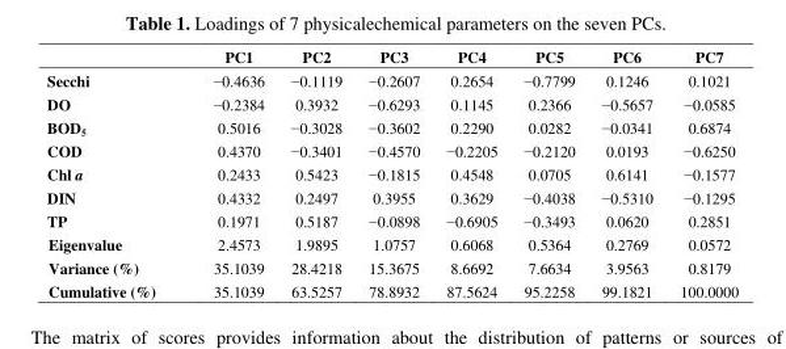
<table><thead><tr><td></td><td>PC1</td><td>PC2</td><td>PC3</td><td>PC4</td><td>PC5</td><td>PC6</td><td>PC7</td></tr></thead><tbody><tr><td>Secchi</td><td>−0.4636</td><td>−0.1119</td><td>−0.2607</td><td>0.2654</td><td>−0.7799</td><td>0.1246</td><td>0.1021</td></tr><tr><td>DO</td><td>−0.2384</td><td>0.3932</td><td>−0.6293</td><td>0.1145</td><td>0.2366</td><td>−0.5657</td><td>−0.0585</td></tr><tr><td>BOD<sub>5</sub></td><td>0.5016</td><td>−0.3028</td><td>−0.3602</td><td>0.2290</td><td>0.0282</td><td>−0.0341</td><td>0.6874</td></tr><tr><td>COD</td><td>0.4370</td><td>−0.3401</td><td>−0.4570</td><td>−0.2205</td><td>−0.2120</td><td>0.0193</td><td>−0.6250</td></tr><tr><td>Chl a</td><td>0.2433</td><td>0.5423</td><td>−0.1815</td><td>0.4548</td><td>0.0705</td><td>0.6141</td><td>−0.1577</td></tr><tr><td>DIN</td><td>0.4332</td><td>0.2497</td><td>0.3955</td><td>0.3629</td><td>−0.4038</td><td>−0.5310</td><td>−0.1295</td></tr><tr><td>TP</td><td>0.1971</td><td>0.5187</td><td>−0.0898</td><td>−0.6905</td><td>−0.3493</td><td>0.0620</td><td>0.2851</td></tr><tr><td>Eigenvalue</td><td>2.4573</td><td>1.9895</td><td>1.0757</td><td>0.6068</td><td>0.5364</td><td>0.2769</td><td>0.0572</td></tr><tr><td>Variance (%)</td><td>35.1039</td><td>28.4218</td><td>15.3675</td><td>8.6692</td><td>7.6634</td><td>3.9563</td><td>0.8179</td></tr><tr><td>Cumulative (%)</td><td>35.1039</td><td>63.5257</td><td>78.8932</td><td>87.5624</td><td>95.2258</td><td>99.1821</td><td>100.0000</td></tr></tbody></table>